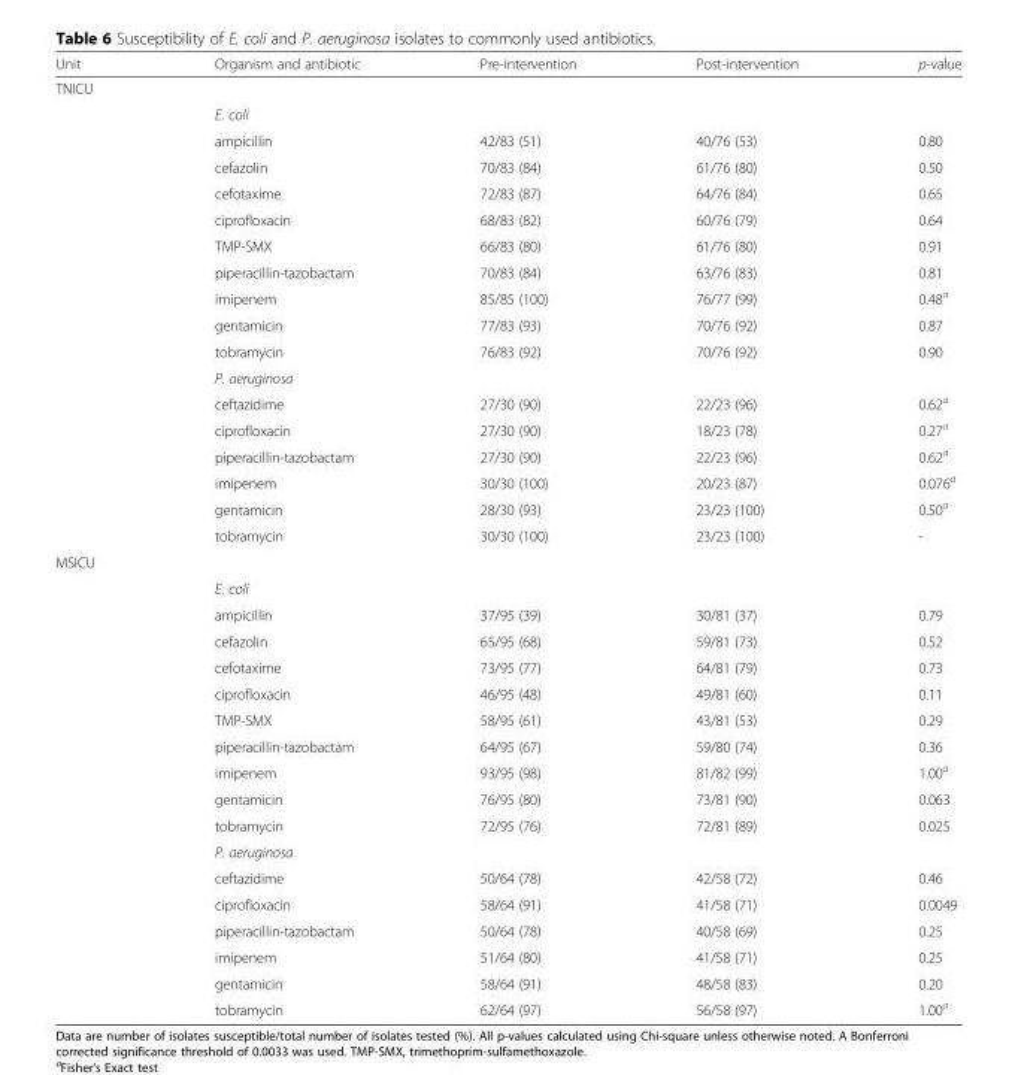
<table><thead><tr><td>Unit</td><td>Organism and antibiotic</td><td>Pre-intervention</td><td>Post-intervention</td><td>p-value</td></tr></thead><tbody><tr><td colspan="5">TNICU</td></tr><tr><td></td><td>E. coli</td><td></td><td></td><td></td></tr><tr><td></td><td>ampicillin</td><td>42/83 (51)</td><td>40/76 (53)</td><td>0.80</td></tr><tr><td></td><td>cefazolin</td><td>70/83 (84)</td><td>61/76 (80)</td><td>0.50</td></tr><tr><td></td><td>cefotaxime</td><td>72/83 (87)</td><td>64/76 (84)</td><td>0.65</td></tr><tr><td></td><td>ciprofloxacin</td><td>68/83 (82)</td><td>60/76 (79)</td><td>0.64</td></tr><tr><td></td><td>TMP-SMX</td><td>66/83 (80)</td><td>61/76 (80)</td><td>0.91</td></tr><tr><td></td><td>piperacillin-tazobactam</td><td>70/83 (84)</td><td>63/76 (83)</td><td>0.81</td></tr><tr><td></td><td>imipenem</td><td>85/85 (100)</td><td>76/77 (99)</td><td>0.48<sup>a</sup></td></tr><tr><td></td><td>gentamicin</td><td>77/83 (93)</td><td>70/76 (92)</td><td>0.87</td></tr><tr><td></td><td>tobramycin</td><td>76/83 (92)</td><td>70/76 (92)</td><td>0.90</td></tr><tr><td></td><td>P. aeruginosa</td><td></td><td></td><td></td></tr><tr><td></td><td>ceftazidime</td><td>27/30 (90)</td><td>22/23 (96)</td><td>0.62<sup>a</sup></td></tr><tr><td></td><td>ciprofloxacin</td><td>27/30 (90)</td><td>18/23 (78)</td><td>0.27<sup>a</sup></td></tr><tr><td></td><td>piperacillin-tazobactam</td><td>27/30 (90)</td><td>22/23 (96)</td><td>0.62<sup>a</sup></td></tr><tr><td></td><td>imipenem</td><td>30/30 (100)</td><td>20/23 (87)</td><td>0.076<sup>a</sup></td></tr><tr><td></td><td>gentamicin</td><td>28/30 (93)</td><td>23/23 (100)</td><td>0.50<sup>a</sup></td></tr><tr><td></td><td>tobramycin</td><td>30/30 (100)</td><td>23/23 (100)</td><td>-</td></tr><tr><td colspan="5">MSICU</td></tr><tr><td></td><td>E. coli</td><td></td><td></td><td></td></tr><tr><td></td><td>ampicillin</td><td>37/95 (39)</td><td>30/81 (37)</td><td>0.79</td></tr><tr><td></td><td>cefazolin</td><td>65/95 (68)</td><td>59/81 (73)</td><td>0.52</td></tr><tr><td></td><td>cefotaxime</td><td>73/95 (77)</td><td>64/81 (79)</td><td>0.73</td></tr><tr><td></td><td>ciprofloxacin</td><td>46/95 (48)</td><td>49/81 (60)</td><td>0.11</td></tr><tr><td></td><td>TMP-SMX</td><td>58/95 (61)</td><td>43/81 (53)</td><td>0.29</td></tr><tr><td></td><td>piperacillin-tazobactam</td><td>64/95 (67)</td><td>59/80 (74)</td><td>0.36</td></tr><tr><td></td><td>imipenem</td><td>93/95 (98)</td><td>81/82 (99)</td><td>1.00<sup>a</sup></td></tr><tr><td></td><td>gentamicin</td><td>76/95 (80)</td><td>73/81 (90)</td><td>0.063</td></tr><tr><td></td><td>tobramycin</td><td>72/95 (76)</td><td>72/81 (89)</td><td>0.025</td></tr><tr><td></td><td>P. aeruginosa</td><td></td><td></td><td></td></tr><tr><td></td><td>ceftazidime</td><td>50/64 (78)</td><td>42/58 (72)</td><td>0.46</td></tr><tr><td></td><td>ciprofloxacin</td><td>58/64 (91)</td><td>41/58 (71)</td><td>0.0049</td></tr><tr><td></td><td>piperacillin-tazobactam</td><td>50/64 (78)</td><td>40/58 (69)</td><td>0.25</td></tr><tr><td></td><td>imipenem</td><td>51/64 (80)</td><td>41/58 (71)</td><td>0.25</td></tr><tr><td></td><td>gentamicin</td><td>58/64 (91)</td><td>48/58 (83)</td><td>0.20</td></tr><tr><td></td><td>tobramycin</td><td>62/64 (97)</td><td>56/58 (97)</td><td>1.00<sup>a</sup></td></tr></tbody></table>